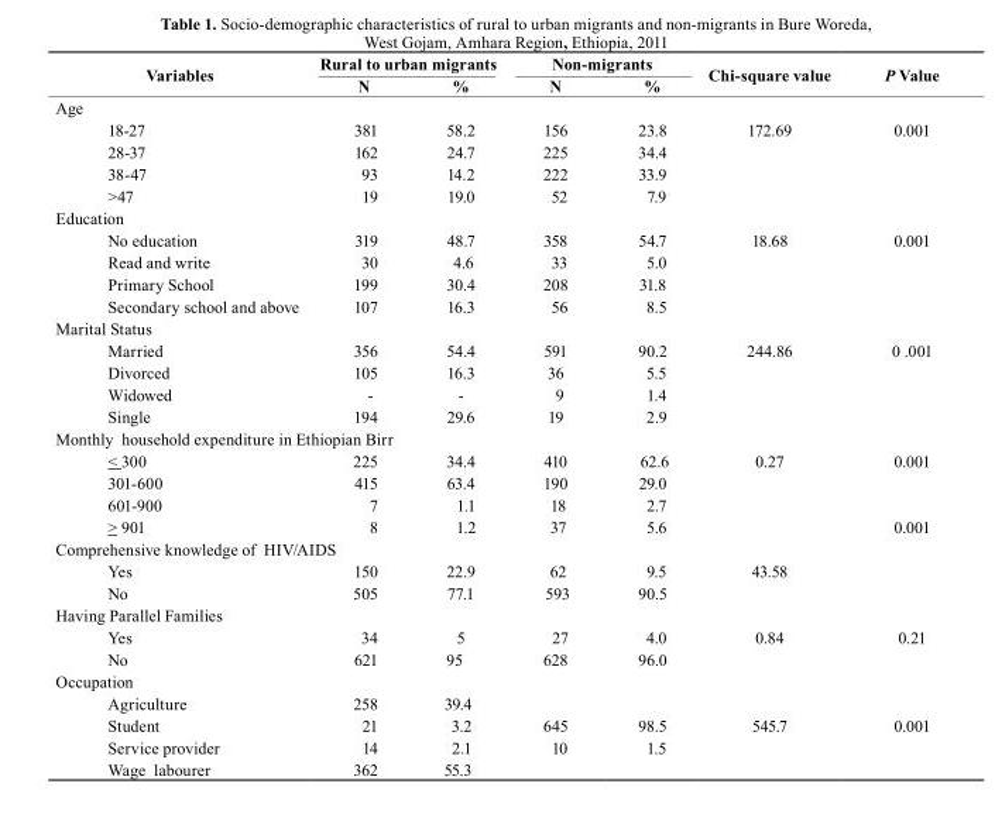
<table><thead><tr><td rowspan="2">Variables</td><td colspan="2">rural to urban migrants</td><td colspan="2">Non-migrants</td><td rowspan="2">chi-square value</td><td rowspan="2">P Value</td></tr><tr><td>N</td><td>%</td><td>N</td><td>%</td></tr></thead><tbody><tr><td colspan="7">Age</td></tr><tr><td>18-27</td><td>381</td><td>58.2</td><td>156</td><td>23.8</td><td>172.69</td><td>0.001</td></tr><tr><td>28-37</td><td>162</td><td>24.7</td><td>225</td><td>34.4</td><td></td><td></td></tr><tr><td>38-47</td><td>93</td><td>14.2</td><td>222</td><td>33.9</td><td></td><td></td></tr><tr><td>&gt;47</td><td>19</td><td>19.0</td><td>52</td><td>7.9</td><td></td><td></td></tr><tr><td colspan="7">Education</td></tr><tr><td>No education</td><td>319</td><td>48.7</td><td>358</td><td>54.7</td><td>18.68</td><td>0.001</td></tr><tr><td>Read and write</td><td>30</td><td>4.6</td><td>33</td><td>5.0</td><td></td><td></td></tr><tr><td>Primary School</td><td>199</td><td>30.4</td><td>208</td><td>31.8</td><td></td><td></td></tr><tr><td>Secondary school and above</td><td>107</td><td>16.3</td><td>56</td><td>8.5</td><td></td><td></td></tr><tr><td colspan="7">Marital Status</td></tr><tr><td>Married</td><td>356</td><td>54.4</td><td>591</td><td>90.2</td><td>244.86</td><td>0 .001</td></tr><tr><td>Divorced</td><td>105</td><td>16.3</td><td>36</td><td>5.5</td><td></td><td></td></tr><tr><td>Widowed</td><td>-</td><td>-</td><td>9</td><td>1.4</td><td></td><td></td></tr><tr><td>Single</td><td>194</td><td>29.6</td><td>19</td><td>2.9</td><td></td><td></td></tr><tr><td colspan="7">Monthly household expenditure in Ethiopian Birr</td></tr><tr><td>&lt; 300</td><td>225</td><td>34.4</td><td>410</td><td>62.6</td><td>0.27</td><td>0.001</td></tr><tr><td>301-600</td><td>415</td><td>63.4</td><td>190</td><td>29.0</td><td></td><td></td></tr><tr><td>601-900</td><td>7</td><td>1.1</td><td>18</td><td>2.7</td><td></td><td></td></tr><tr><td>&gt; 901</td><td>8</td><td>1.2</td><td>37</td><td>5.6</td><td></td><td>0.001</td></tr><tr><td colspan="7">Comprehensive knowledge of HIV/AIDS</td></tr><tr><td>Yes</td><td>150</td><td>22.9</td><td>62</td><td>9.5</td><td>43.58</td><td></td></tr><tr><td>No</td><td>505</td><td>77.1</td><td>593</td><td>90.5</td><td></td><td></td></tr><tr><td colspan="7">Having Parallel Families</td></tr><tr><td>Yes</td><td>34</td><td>5</td><td>27</td><td>4.0</td><td>0.84</td><td>0.21</td></tr><tr><td>No</td><td>621</td><td>95</td><td>628</td><td>96.0</td><td></td><td></td></tr><tr><td colspan="7">Occupation</td></tr><tr><td>Agriculture</td><td>258</td><td>39.4</td><td></td><td></td><td></td><td></td></tr><tr><td>Student</td><td>21</td><td>3.2</td><td>645</td><td>98.5</td><td>545.7</td><td>0.001</td></tr><tr><td>Service provider</td><td>14</td><td>2.1</td><td>10</td><td>1.5</td><td></td><td></td></tr><tr><td>Wage labourer</td><td>362</td><td>55.3</td><td></td><td></td><td></td><td></td></tr></tbody></table>